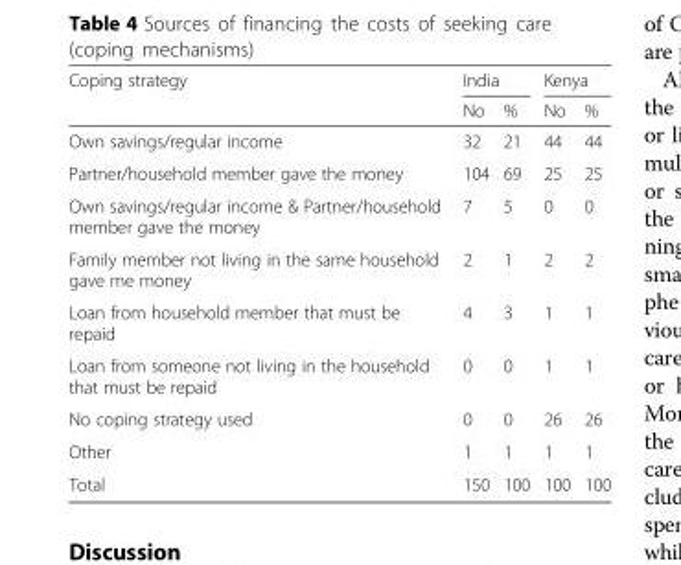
<table><thead><tr><td rowspan="2">Coping strategy</td><td colspan="2">India</td><td colspan="2">Kenya</td></tr><tr><td>No</td><td>%</td><td>No</td><td>%</td></tr></thead><tbody><tr><td>Own savings/regular income</td><td>32</td><td>21</td><td>44</td><td>44</td></tr><tr><td>Partner/household member gave the money</td><td>104</td><td>69</td><td>25</td><td>25</td></tr><tr><td>Own savings/regular income &amp; Partner/household member gave the money</td><td>7</td><td>5</td><td>0</td><td>0</td></tr><tr><td>Family member not living in the same household gave me money</td><td>2</td><td>1</td><td>2</td><td>2</td></tr><tr><td>Loan from household member that must be repaid</td><td>4</td><td>3</td><td>1</td><td>1</td></tr><tr><td>Loan from someone not living in the household that must be repaid</td><td>0</td><td>0</td><td>1</td><td>1</td></tr><tr><td>No coping strategy used</td><td>0</td><td>0</td><td>26</td><td>26</td></tr><tr><td>Other</td><td>1</td><td>1</td><td>1</td><td>1</td></tr><tr><td>Total</td><td>150</td><td>100</td><td>100</td><td>100</td></tr></tbody></table>